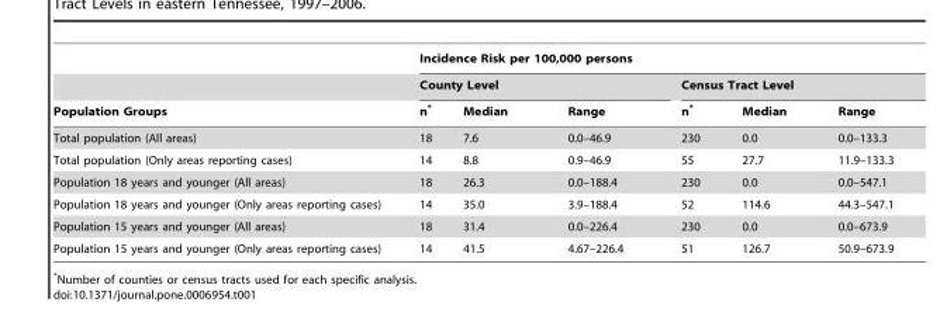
<table><thead><tr><td rowspan="3">Population Groups</td><td colspan="6">Incidence Risk per 100,000 persons</td></tr><tr><td colspan="3">County Level</td><td colspan="3">Census Tract Level</td></tr><tr><td>n*</td><td>Median</td><td>Range</td><td>n*</td><td>Median</td><td>Range</td></tr></thead><tbody><tr><td>Total population (All areas)</td><td>18</td><td>7.6</td><td>0.0–46.9</td><td>230</td><td>0.0</td><td>0.0–133.3</td></tr><tr><td>Total population (Only areas reporting cases)</td><td>14</td><td>8.8</td><td>0.9–46.9</td><td>55</td><td>27.7</td><td>11.9–133.3</td></tr><tr><td>Population 18 years and younger (All areas)</td><td>18</td><td>26.3</td><td>0.0–188.4</td><td>230</td><td>0.0</td><td>0.0–547.1</td></tr><tr><td>Population 18 years and younger (Only areas reporting cases)</td><td>14</td><td>35.0</td><td>3.9–188.4</td><td>52</td><td>114.6</td><td>44.3–547.1</td></tr><tr><td>Population 15 years and younger (All areas)</td><td>18</td><td>31.4</td><td>0.0–226.4</td><td>230</td><td>0.0</td><td>0.0–673.9</td></tr><tr><td>Population 15 years and younger (Only areas reporting cases)</td><td>14</td><td>41.5</td><td>4.67–226.4</td><td>51</td><td>126.7</td><td>50.9–673.9</td></tr></tbody></table>